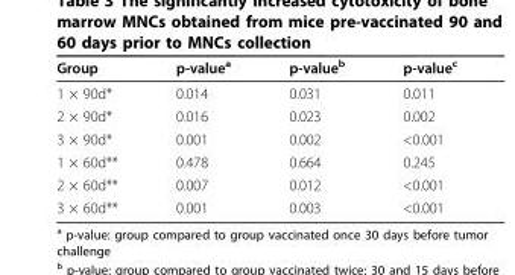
<table><thead><tr><td>Group</td><td>p-value<sup>a</sup></td><td>p-value<sup>b</sup></td><td>p-value<sup>c</sup></td></tr></thead><tbody><tr><td>1 × 90d*</td><td>0.014</td><td>0.031</td><td>0.011</td></tr><tr><td>2 × 90d*</td><td>0.016</td><td>0.023</td><td>0.002</td></tr><tr><td>3 × 90d*</td><td>0.001</td><td>0.002</td><td>&lt;0.001</td></tr><tr><td>1 × 60d**</td><td>0.478</td><td>0.664</td><td>0.245</td></tr><tr><td>2 × 60d**</td><td>0.007</td><td>0.012</td><td>&lt;0.001</td></tr><tr><td>3 × 60d**</td><td>0.001</td><td>0.003</td><td>&lt;0.001</td></tr></tbody></table>